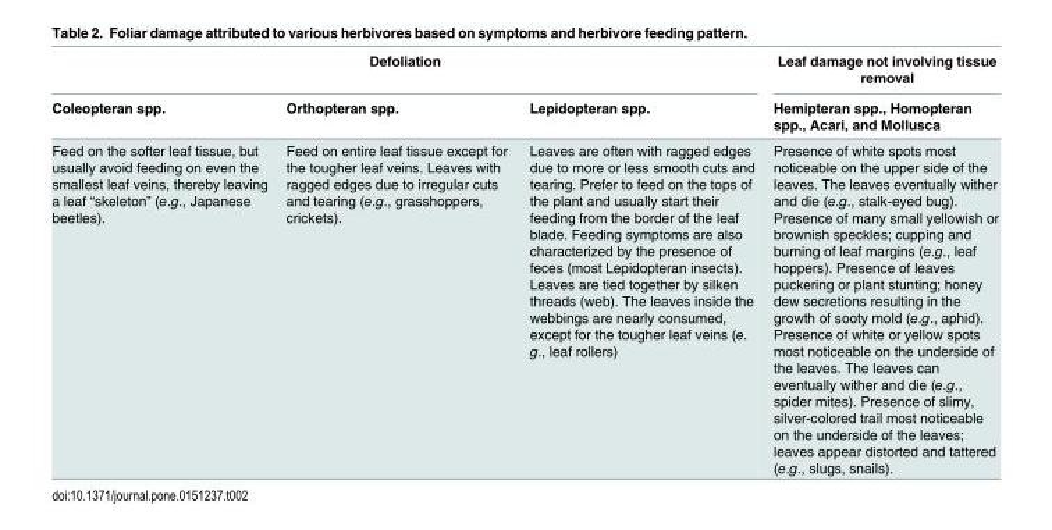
<table><thead><tr><td colspan="3">Defoliation</td><td rowspan="2">Leaf damage not involving tissue removal Hemipteran spp., Homopteran spp., Acari, and Mollusca</td></tr><tr><td>Coleopteran spp.</td><td>Orthopteran spp.</td><td>Lepidopteran spp.</td></tr></thead><tbody><tr><td>Feed on the softer leaf tissue, but usually avoid feeding on even the smallest leaf veins, thereby leaving a leaf “skeleton” (e.g., Japanese beetles).</td><td>Feed on entire leaf tissue except for the tougher leaf veins. Leaves with ragged edges due to irregular cuts and tearing (e.g., grasshoppers, crickets).</td><td>Leaves are often with ragged edges due to more or less smooth cuts and tearing. Prefer to feed on the tops of the plant and usually start their feeding from the border of the leaf blade. Feeding symptoms are also characterized by the presence of feces (most Lepidopteran insects). Leaves are tied together by silken threads (web). The leaves inside the webbings are nearly consumed, except for the tougher leaf veins (e. g., leaf rollers)</td><td>Presence of white spots most noticeable on the upper side of the leaves. The leaves eventually wither and die (e.g., stalk-eyed bug). Presence of many small yellowish or brownish speckles; cupping and burning of leaf margins (e.g., leaf hoppers). Presence of leaves puckering or plant stunting; honey dew secretions resulting in the growth of sooty mold (e.g., aphid). Presence of white or yellow spots most noticeable on the underside of the leaves. The leaves can eventually wither and die (e.g., spider mites). Presence of slimy, silver-colored trail most noticeable on the underside of the leaves; leaves appear distorted and tattered (e.g., slugs, snails).</td></tr></tbody></table>